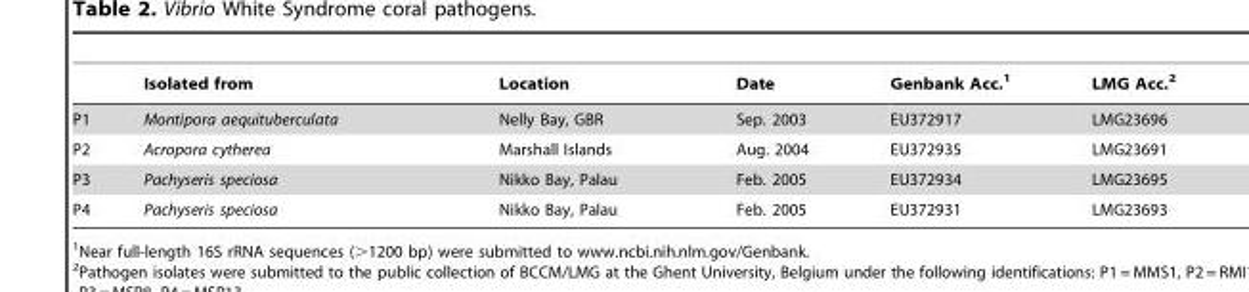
<table><thead><tr><td></td><td>Isolated from</td><td>Location</td><td>Date</td><td>Genbank Acc.<sup>1</sup></td><td>LMG Acc.<sup>2</sup></td></tr></thead><tbody><tr><td>P1</td><td>Montipora aequituberculata</td><td>Nelly Bay, GBR</td><td>Sep. 2003</td><td>EU372917</td><td>LMG23696</td></tr><tr><td>P2</td><td>Acropora cytherea</td><td>Marshall Islands</td><td>Aug. 2004</td><td>EU372935</td><td>LMG23691</td></tr><tr><td>P3</td><td>Pachyseris speciosa</td><td>Nikko Bay, Palau</td><td>Feb. 2005</td><td>EU372934</td><td>LMG23695</td></tr><tr><td>P4</td><td>Pachyseris speciosa</td><td>Nikko Bay, Palau</td><td>Feb. 2005</td><td>EU372931</td><td>LMG23693</td></tr></tbody></table>